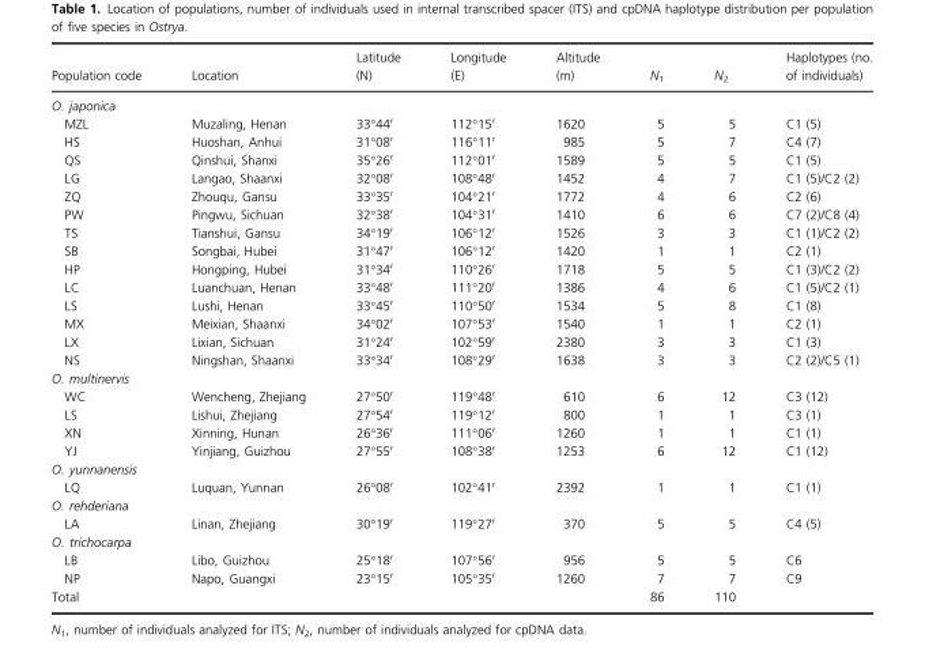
<table><thead><tr><td>Population code</td><td>Location</td><td>Latitude (N)</td><td>Longitude (E)</td><td>Altitude (m)</td><td>N<sub>1</sub></td><td>N<sub>2</sub></td><td>Haplotypes (no. of individuals)</td></tr></thead><tbody><tr><td colspan="8">O. japonica</td></tr><tr><td>MZL</td><td>Muzaling, Henan</td><td>33°44′</td><td>112°15′</td><td>1620</td><td>5</td><td>5</td><td>C1 (5)</td></tr><tr><td>HS</td><td>Huoshan, Anhui</td><td>31°08′</td><td>116°11′</td><td>985</td><td>5</td><td>7</td><td>C4 (7)</td></tr><tr><td>QS</td><td>Qinshui, Shanxi</td><td>35°26′</td><td>112°01′</td><td>1589</td><td>5</td><td>5</td><td>C1 (5)</td></tr><tr><td>LG</td><td>Langao, Shaanxi</td><td>32°08′</td><td>108°48′</td><td>1452</td><td>4</td><td>7</td><td>C1 (5)/C2 (2)</td></tr><tr><td>ZQ</td><td>Zhouqu, Gansu</td><td>33°35′</td><td>104°21′</td><td>1772</td><td>4</td><td>6</td><td>C2 (6)</td></tr><tr><td>PW</td><td>Pingwu, Sichuan</td><td>32°38′</td><td>104°31′</td><td>1410</td><td>6</td><td>6</td><td>C7 (2)/C8 (4)</td></tr><tr><td>TS</td><td>Tianshui, Gansu</td><td>34°19′</td><td>106°12′</td><td>1526</td><td>3</td><td>3</td><td>C1 (1)/C2 (2)</td></tr><tr><td>SB</td><td>Songbai, Hubei</td><td>31°47′</td><td>106°12′</td><td>1420</td><td>1</td><td>1</td><td>C2 (1)</td></tr><tr><td>HP</td><td>Hongping, Hubei</td><td>31°34′</td><td>110°26′</td><td>1718</td><td>5</td><td>5</td><td>C1 (3)/C2 (2)</td></tr><tr><td>LC</td><td>Luanchuan, Henan</td><td>33°48′</td><td>111°20′</td><td>1386</td><td>4</td><td>6</td><td>C1 (5)/C2 (1)</td></tr><tr><td>LS</td><td>Lushi, Henan</td><td>33°45′</td><td>110°50′</td><td>1534</td><td>5</td><td>8</td><td>C1 (8)</td></tr><tr><td>MX</td><td>Meixian, Shaanxi</td><td>34°02′</td><td>107°53′</td><td>1540</td><td>1</td><td>1</td><td>C2 (1)</td></tr><tr><td>LX</td><td>Lixian, Sichuan</td><td>31°24′</td><td>102°59′</td><td>2380</td><td>3</td><td>3</td><td>C1 (3)</td></tr><tr><td>NS</td><td>Ningshan, Shaanxi</td><td>33°34′</td><td>108°29′</td><td>1638</td><td>3</td><td>3</td><td>C2 (2)/C5 (1)</td></tr><tr><td colspan="8">O. multinervis</td></tr><tr><td>WC</td><td>Wencheng, Zhejiang</td><td>27°50′</td><td>119°48′</td><td>610</td><td>6</td><td>12</td><td>C3 (12)</td></tr><tr><td>LS</td><td>Lishui, Zhejiang</td><td>27°54′</td><td>119°12′</td><td>800</td><td>1</td><td>1</td><td>C3 (1)</td></tr><tr><td>XN</td><td>Xinning, Hunan</td><td>26°36′</td><td>111°06′</td><td>1260</td><td>1</td><td>1</td><td>C1 (1)</td></tr><tr><td>YJ</td><td>Yinjiang, Guizhou</td><td>27°55′</td><td>108°38′</td><td>1253</td><td>6</td><td>12</td><td>C1 (12)</td></tr><tr><td colspan="8">O. yunnanensis</td></tr><tr><td>LQ</td><td>Luquan, Yunnan</td><td>26°08′</td><td>102°41′</td><td>2392</td><td>1</td><td>1</td><td>C1 (1)</td></tr><tr><td colspan="8">O. rehderiana</td></tr><tr><td>LA</td><td>Linan, Zhejiang</td><td>30°19′</td><td>119°27′</td><td>370</td><td>5</td><td>5</td><td>C4 (5)</td></tr><tr><td colspan="8">O. trichocarpa</td></tr><tr><td>LB</td><td>Libo, Guizhou</td><td>25°18′</td><td>107°56′</td><td>956</td><td>5</td><td>5</td><td>C6</td></tr><tr><td>NP</td><td>Napo, Guangxi</td><td>23°15′</td><td>105°35′</td><td>1260</td><td>7</td><td>7</td><td>C9</td></tr><tr><td>Total</td><td></td><td></td><td></td><td></td><td>86</td><td>110</td><td></td></tr></tbody></table>